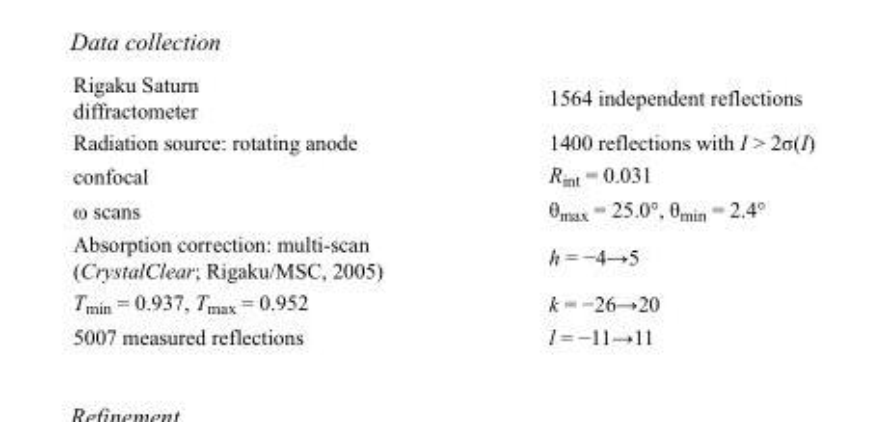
<table><tbody><tr><td>Rigaku Saturn diffractometer</td><td>1564 independent reflections</td></tr><tr><td>Radiation source: rotating anode</td><td>1400 reflections with I &gt; 2σ(I)</td></tr><tr><td>confocal</td><td>R<sub>int</sub> = 0.031</td></tr><tr><td>ω scans</td><td>θ<sub>max</sub> = 25.0°, θ<sub>min</sub> = 2.4°</td></tr><tr><td>Absorption correction: multi-scan (CrystalClear; Rigaku/MSC, 2005)</td><td>h = −4→5</td></tr><tr><td>T<sub>min</sub> = 0.937, T<sub>max</sub> = 0.952</td><td>k = −26→20</td></tr><tr><td>5007 measured reflections</td><td>l = −11→11</td></tr></tbody></table>